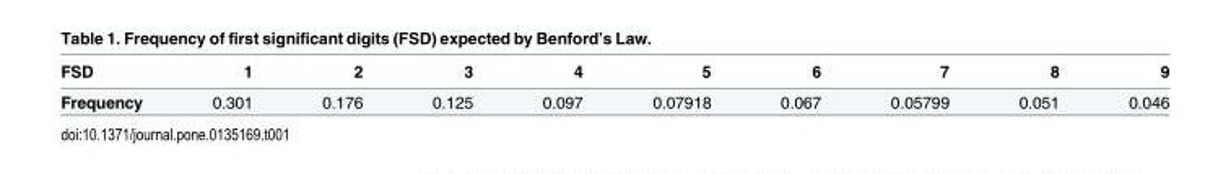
<table><thead><tr><td>FSD</td><td>1</td><td>2</td><td>3</td><td>4</td><td>5</td><td>6</td><td>7</td><td>8</td><td>9</td></tr></thead><tbody><tr><td>Frequency</td><td>0.301</td><td>0.176</td><td>0.125</td><td>0.097</td><td>0.07918</td><td>0.067</td><td>0.05799</td><td>0.051</td><td>0.046</td></tr></tbody></table>